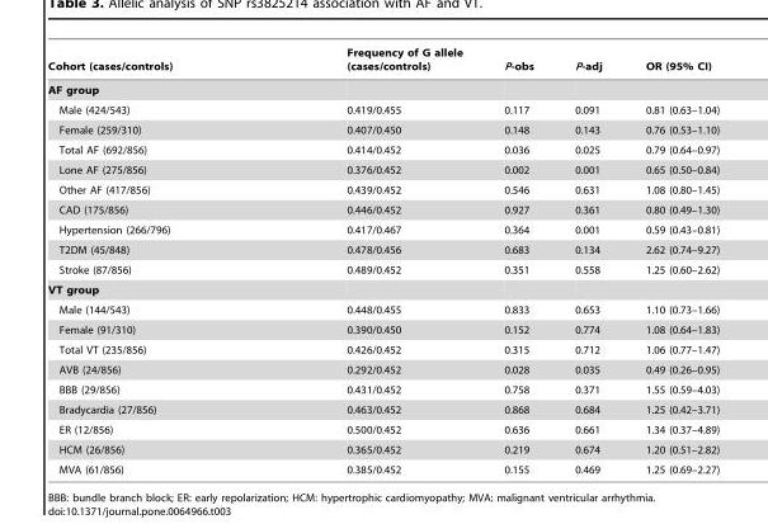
<table><thead><tr><td>Cohort (cases/controls)</td><td>Frequency of G allele (cases/controls)</td><td>P-obs</td><td>P-adj</td><td>OR (95% CI)</td></tr></thead><tbody><tr><td colspan="5">AF group</td></tr><tr><td>Male (424/543)</td><td>0.419/0.455</td><td>0.117</td><td>0.091</td><td>0.81 (0.63–1.04)</td></tr><tr><td>Female (259/310)</td><td>0.407/0.450</td><td>0.148</td><td>0.143</td><td>0.76 (0.53–1.10)</td></tr><tr><td>Total AF (692/856)</td><td>0.414/0.452</td><td>0.036</td><td>0.025</td><td>0.79 (0.64–0.97)</td></tr><tr><td>Lone AF (275/856)</td><td>0.376/0.452</td><td>0.002</td><td>0.001</td><td>0.65 (0.50–0.84)</td></tr><tr><td>Other AF (417/856)</td><td>0.439/0.452</td><td>0.546</td><td>0.631</td><td>1.08 (0.80–1.45)</td></tr><tr><td>CAD (175/856)</td><td>0.446/0.452</td><td>0.927</td><td>0.361</td><td>0.80 (0.49–1.30)</td></tr><tr><td>Hypertension (266/796)</td><td>0.417/0.467</td><td>0.364</td><td>0.001</td><td>0.59 (0.43–0.81)</td></tr><tr><td>T2DM (45/848)</td><td>0.478/0.456</td><td>0.683</td><td>0.134</td><td>2.62 (0.74–9.27)</td></tr><tr><td>Stroke (87/856)</td><td>0.489/0.452</td><td>0.351</td><td>0.558</td><td>1.25 (0.60–2.62)</td></tr><tr><td colspan="5">VT group</td></tr><tr><td>Male (144/543)</td><td>0.448/0.455</td><td>0.833</td><td>0.653</td><td>1.10 (0.73–1.66)</td></tr><tr><td>Female (91/310)</td><td>0.390/0.450</td><td>0.152</td><td>0.774</td><td>1.08 (0.64–1.83)</td></tr><tr><td>Total VT (235/856)</td><td>0.426/0.452</td><td>0.315</td><td>0.712</td><td>1.06 (0.77–1.47)</td></tr><tr><td>AVB (24/856)</td><td>0.292/0.452</td><td>0.028</td><td>0.035</td><td>0.49 (0.26–0.95)</td></tr><tr><td>BBB (29/856)</td><td>0.431/0.452</td><td>0.758</td><td>0.371</td><td>1.55 (0.59–4.03)</td></tr><tr><td>Bradycardia (27/856)</td><td>0.463/0.452</td><td>0.868</td><td>0.684</td><td>1.25 (0.42–3.71)</td></tr><tr><td>ER (12/856)</td><td>0.500/0.452</td><td>0.636</td><td>0.661</td><td>1.34 (0.37–4.89)</td></tr><tr><td>HCM (26/856)</td><td>0.365/0.452</td><td>0.219</td><td>0.674</td><td>1.20 (0.51–2.82)</td></tr><tr><td>MVA (61/856)</td><td>0.385/0.452</td><td>0.155</td><td>0.469</td><td>1.25 (0.69–2.27)</td></tr></tbody></table>